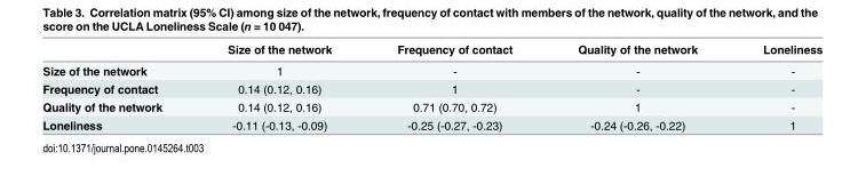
<table><thead><tr><td></td><td>Size of the network</td><td>Frequency of contact</td><td>Quality of the network</td><td>Loneliness</td></tr></thead><tbody><tr><td>Size of the network</td><td>1</td><td>-</td><td>-</td><td>-</td></tr><tr><td>Frequency of contact</td><td>0.14 (0.12, 0.16)</td><td>1</td><td>-</td><td>-</td></tr><tr><td>Quality of the network</td><td>0.14 (0.12, 0.16)</td><td>0.71 (0.70, 0.72)</td><td>1</td><td>-</td></tr><tr><td>Loneliness</td><td>-0.11 (-0.13, -0.09)</td><td>-0.25 (-0.27, -0.23)</td><td>-0.24 (-0.26, -0.22)</td><td>1</td></tr></tbody></table>